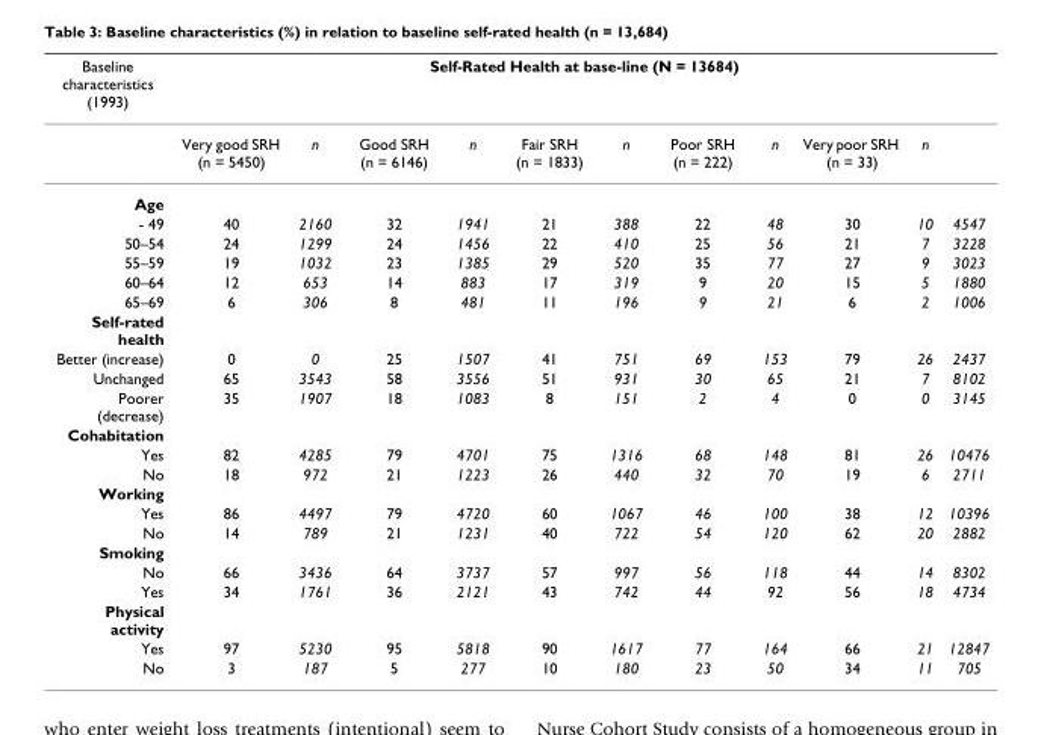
<table><thead><tr><td rowspan="2">Baseline characteristics (1993)</td><td colspan="11">Self-Rated Health at base-line (N = 13684)</td></tr><tr><td>Very good SRH (n = 5450)</td><td>n</td><td>Good SRH (n = 6146)</td><td>n</td><td>Fair SRH (n = 1833)</td><td>n</td><td>Poor SRH (n = 222)</td><td>n</td><td>Very poor SRH (n = 33)</td><td>n</td><td></td></tr></thead><tbody><tr><td colspan="12">Age</td></tr><tr><td>- 49</td><td>40</td><td>2160</td><td>32</td><td>1941</td><td>21</td><td>388</td><td>22</td><td>48</td><td>30</td><td>10</td><td>4547</td></tr><tr><td>50–54</td><td>24</td><td>1299</td><td>24</td><td>1456</td><td>22</td><td>410</td><td>25</td><td>56</td><td>21</td><td>7</td><td>3228</td></tr><tr><td>55–59</td><td>19</td><td>1032</td><td>23</td><td>1385</td><td>29</td><td>520</td><td>35</td><td>77</td><td>27</td><td>9</td><td>3023</td></tr><tr><td>60–64</td><td>12</td><td>653</td><td>14</td><td>883</td><td>17</td><td>319</td><td>9</td><td>20</td><td>15</td><td>5</td><td>1880</td></tr><tr><td>65–69</td><td>6</td><td>306</td><td>8</td><td>481</td><td>11</td><td>196</td><td>9</td><td>21</td><td>6</td><td>2</td><td>1006</td></tr><tr><td colspan="12">Self-rated health</td></tr><tr><td>Better (increase)</td><td>0</td><td>0</td><td>25</td><td>1507</td><td>41</td><td>751</td><td>69</td><td>153</td><td>79</td><td>26</td><td>2437</td></tr><tr><td>Unchanged</td><td>65</td><td>3543</td><td>58</td><td>3556</td><td>51</td><td>931</td><td>30</td><td>65</td><td>21</td><td>7</td><td>8102</td></tr><tr><td>Poorer (decrease)</td><td>35</td><td>1907</td><td>18</td><td>1083</td><td>8</td><td>151</td><td>2</td><td>4</td><td>0</td><td>0</td><td>3145</td></tr><tr><td colspan="12">Cohabitation</td></tr><tr><td>Yes</td><td>82</td><td>4285</td><td>79</td><td>4701</td><td>75</td><td>1316</td><td>68</td><td>148</td><td>81</td><td>26</td><td>10476</td></tr><tr><td>No</td><td>18</td><td>972</td><td>21</td><td>1223</td><td>26</td><td>440</td><td>32</td><td>70</td><td>19</td><td>6</td><td>2711</td></tr><tr><td colspan="12">Working</td></tr><tr><td>Yes</td><td>86</td><td>4497</td><td>79</td><td>4720</td><td>60</td><td>1067</td><td>46</td><td>100</td><td>38</td><td>12</td><td>10396</td></tr><tr><td>No</td><td>14</td><td>789</td><td>21</td><td>1231</td><td>40</td><td>722</td><td>54</td><td>120</td><td>62</td><td>20</td><td>2882</td></tr><tr><td colspan="12">Smoking</td></tr><tr><td>No</td><td>66</td><td>3436</td><td>64</td><td>3737</td><td>57</td><td>997</td><td>56</td><td>118</td><td>44</td><td>14</td><td>8302</td></tr><tr><td>Yes</td><td>34</td><td>1761</td><td>36</td><td>2121</td><td>43</td><td>742</td><td>44</td><td>92</td><td>56</td><td>18</td><td>4734</td></tr><tr><td colspan="12">Physical activity</td></tr><tr><td>Yes</td><td>97</td><td>5230</td><td>95</td><td>5818</td><td>90</td><td>1617</td><td>77</td><td>164</td><td>66</td><td>21</td><td>12847</td></tr><tr><td>No</td><td>3</td><td>187</td><td>5</td><td>277</td><td>10</td><td>180</td><td>23</td><td>50</td><td>34</td><td>11</td><td>705</td></tr></tbody></table>